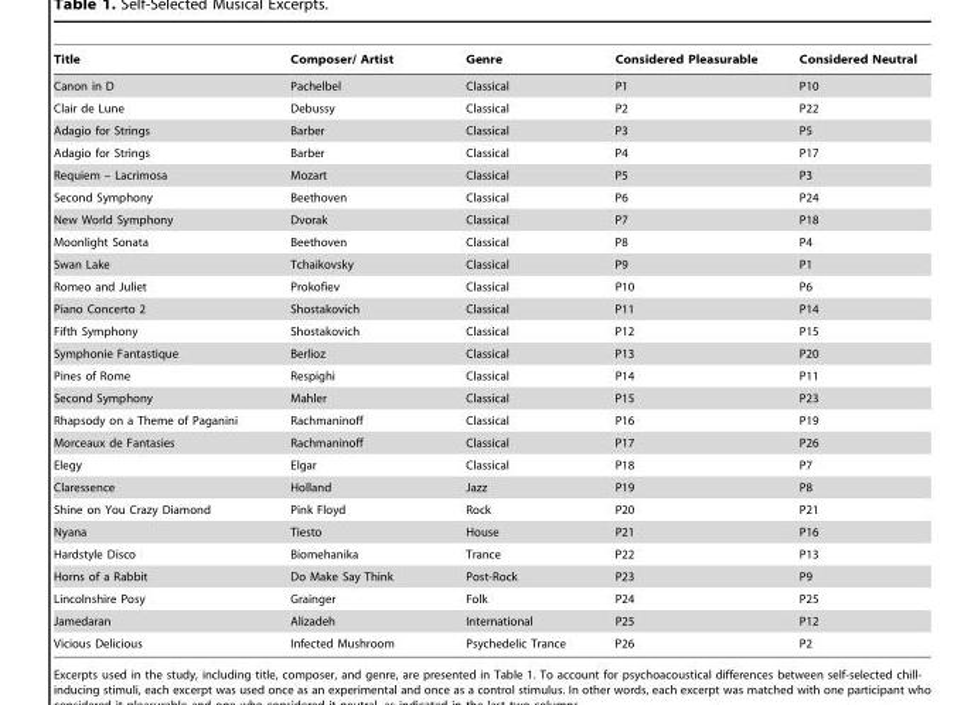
<table><thead><tr><td>Title</td><td>Composer/ Artist</td><td>Genre</td><td>Considered Pleasurable</td><td>Considered Neutral</td></tr></thead><tbody><tr><td>Canon in D</td><td>Pachelbel</td><td>Classical</td><td>P1</td><td>P10</td></tr><tr><td>Clair de Lune</td><td>Debussy</td><td>Classical</td><td>P2</td><td>P22</td></tr><tr><td>Adagio for Strings</td><td>Barber</td><td>Classical</td><td>P3</td><td>P5</td></tr><tr><td>Adagio for Strings</td><td>Barber</td><td>Classical</td><td>P4</td><td>P17</td></tr><tr><td>Requiem – Lacrimosa</td><td>Mozart</td><td>Classical</td><td>P5</td><td>P3</td></tr><tr><td>Second Symphony</td><td>Beethoven</td><td>Classical</td><td>P6</td><td>P24</td></tr><tr><td>New World Symphony</td><td>Dvorak</td><td>Classical</td><td>P7</td><td>P18</td></tr><tr><td>Moonlight Sonata</td><td>Beethoven</td><td>Classical</td><td>P8</td><td>P4</td></tr><tr><td>Swan Lake</td><td>Tchaikovsky</td><td>Classical</td><td>P9</td><td>P1</td></tr><tr><td>Romeo and Juliet</td><td>Prokofiev</td><td>Classical</td><td>P10</td><td>P6</td></tr><tr><td>Piano Concerto 2</td><td>Shostakovich</td><td>Classical</td><td>P11</td><td>P14</td></tr><tr><td>Fifth Symphony</td><td>Shostakovich</td><td>Classical</td><td>P12</td><td>P15</td></tr><tr><td>Symphonie Fantastique</td><td>Berlioz</td><td>Classical</td><td>P13</td><td>P20</td></tr><tr><td>Pines of Rome</td><td>Respighi</td><td>Classical</td><td>P14</td><td>P11</td></tr><tr><td>Second Symphony</td><td>Mahler</td><td>Classical</td><td>P15</td><td>P23</td></tr><tr><td>Rhapsody on a Theme of Paganini</td><td>Rachmaninoff</td><td>Classical</td><td>P16</td><td>P19</td></tr><tr><td>Morceaux de Fantasies</td><td>Rachmaninoff</td><td>Classical</td><td>P17</td><td>P26</td></tr><tr><td>Elegy</td><td>Elgar</td><td>Classical</td><td>P18</td><td>P7</td></tr><tr><td>Claressence</td><td>Holland</td><td>Jazz</td><td>P19</td><td>P8</td></tr><tr><td>Shine on You Crazy Diamond</td><td>Pink Floyd</td><td>Rock</td><td>P20</td><td>P21</td></tr><tr><td>Nyana</td><td>Tiesto</td><td>House</td><td>P21</td><td>P16</td></tr><tr><td>Hardstyle Disco</td><td>Biomehanika</td><td>Trance</td><td>P22</td><td>P13</td></tr><tr><td>Horns of a Rabbit</td><td>Do Make Say Think</td><td>Post-Rock</td><td>P23</td><td>P9</td></tr><tr><td>Lincolnshire Posy</td><td>Grainger</td><td>Folk</td><td>P24</td><td>P25</td></tr><tr><td>Jamedaran</td><td>Alizadeh</td><td>International</td><td>P25</td><td>P12</td></tr><tr><td>Vicious Delicious</td><td>Infected Mushroom</td><td>Psychedelic Trance</td><td>P26</td><td>P2</td></tr></tbody></table>